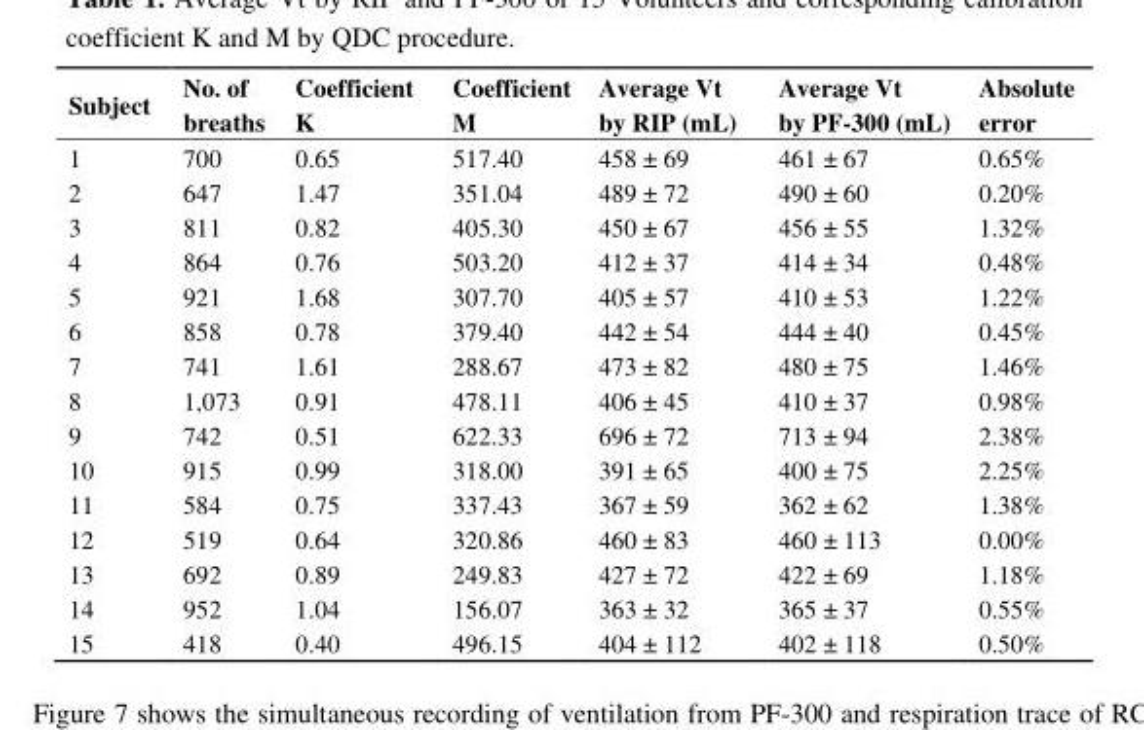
<table><thead><tr><td>Subject</td><td>No. of breaths</td><td>Coefficient K</td><td>Coefficient M</td><td>Average Vt by RIP (mL)</td><td>Average Vt by PF-300 (mL)</td><td>Absolute error</td></tr></thead><tbody><tr><td>1</td><td>700</td><td>0.65</td><td>517.40</td><td>458 ± 69</td><td>461 ± 67</td><td>0.65%</td></tr><tr><td>2</td><td>647</td><td>1.47</td><td>351.04</td><td>489 ± 72</td><td>490 ± 60</td><td>0.20%</td></tr><tr><td>3</td><td>811</td><td>0.82</td><td>405.30</td><td>450 ± 67</td><td>456 ± 55</td><td>1.32%</td></tr><tr><td>4</td><td>864</td><td>0.76</td><td>503.20</td><td>412 ± 37</td><td>414 ± 34</td><td>0.48%</td></tr><tr><td>5</td><td>921</td><td>1.68</td><td>307.70</td><td>405 ± 57</td><td>410 ± 53</td><td>1.22%</td></tr><tr><td>6</td><td>858</td><td>0.78</td><td>379.40</td><td>442 ± 54</td><td>444 ± 40</td><td>0.45%</td></tr><tr><td>7</td><td>741</td><td>1.61</td><td>288.67</td><td>473 ± 82</td><td>480 ± 75</td><td>1.46%</td></tr><tr><td>8</td><td>1,073</td><td>0.91</td><td>478.11</td><td>406 ± 45</td><td>410 ± 37</td><td>0.98%</td></tr><tr><td>9</td><td>742</td><td>0.51</td><td>622.33</td><td>696 ± 72</td><td>713 ± 94</td><td>2.38%</td></tr><tr><td>10</td><td>915</td><td>0.99</td><td>318.00</td><td>391 ± 65</td><td>400 ± 75</td><td>2.25%</td></tr><tr><td>11</td><td>584</td><td>0.75</td><td>337.43</td><td>367 ± 59</td><td>362 ± 62</td><td>1.38%</td></tr><tr><td>12</td><td>519</td><td>0.64</td><td>320.86</td><td>460 ± 83</td><td>460 ± 113</td><td>0.00%</td></tr><tr><td>13</td><td>692</td><td>0.89</td><td>249.83</td><td>427 ± 72</td><td>422 ± 69</td><td>1.18%</td></tr><tr><td>14</td><td>952</td><td>1.04</td><td>156.07</td><td>363 ± 32</td><td>365 ± 37</td><td>0.55%</td></tr><tr><td>15</td><td>418</td><td>0.40</td><td>496.15</td><td>404 ± 112</td><td>402 ± 118</td><td>0.50%</td></tr></tbody></table>